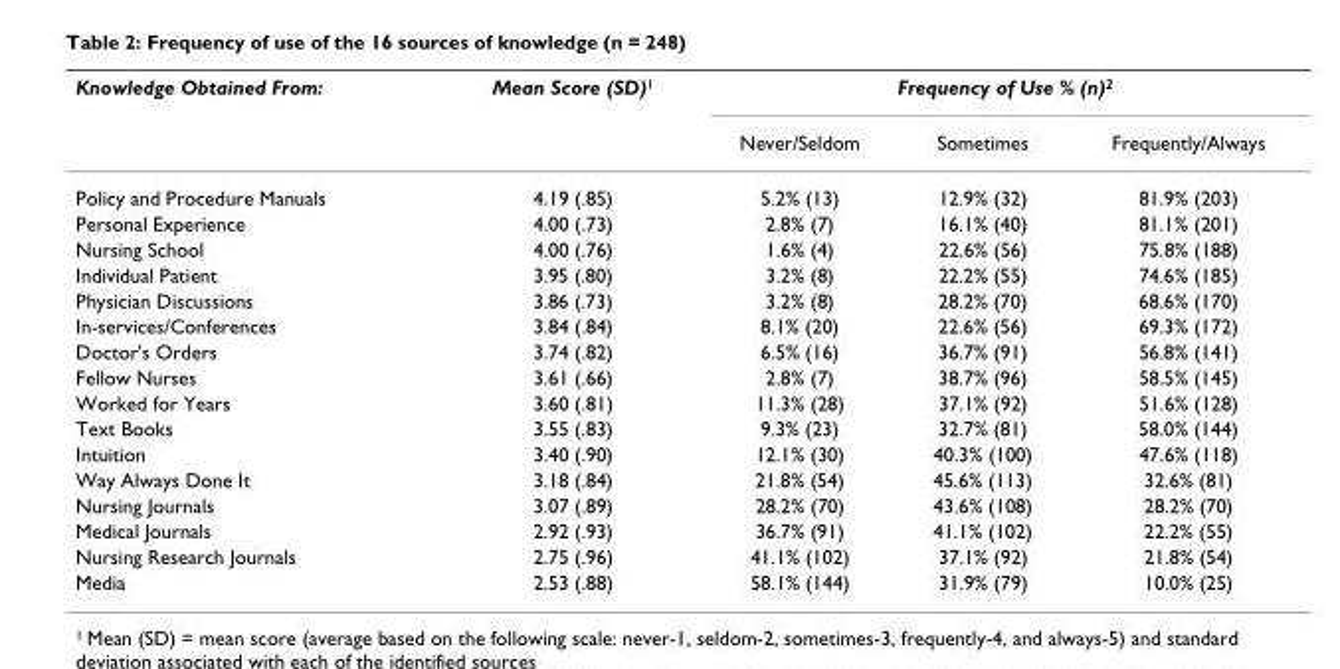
<table><thead><tr><td rowspan="2">Knowledge Obtained From:</td><td rowspan="2">Mean Score (SD)<sup>1</sup></td><td colspan="3">Frequency of Use % (n)<sup>2</sup></td></tr><tr><td>Never/Seldom</td><td>Sometimes</td><td>Frequently/Always</td></tr></thead><tbody><tr><td>Policy and Procedure Manuals</td><td>4.19 (.85)</td><td>5.2% (13)</td><td>12.9% (32)</td><td>81.9% (203)</td></tr><tr><td>Personal Experience</td><td>4.00 (.73)</td><td>2.8% (7)</td><td>16.1% (40)</td><td>81.1% (201)</td></tr><tr><td>Nursing School</td><td>4.00 (.76)</td><td>1.6% (4)</td><td>22.6% (56)</td><td>75.8% (188)</td></tr><tr><td>Individual Patient</td><td>3.95 (.80)</td><td>3.2% (8)</td><td>22.2% (55)</td><td>74.6% (185)</td></tr><tr><td>Physician Discussions</td><td>3.86 (.73)</td><td>3.2% (8)</td><td>28.2% (70)</td><td>68.6% (170)</td></tr><tr><td>In-services/Conferences</td><td>3.84 (.84)</td><td>8.1% (20)</td><td>22.6% (56)</td><td>69.3% (172)</td></tr><tr><td>Doctor&#x27;s Orders</td><td>3.74 (.82)</td><td>6.5% (16)</td><td>36.7% (91)</td><td>56.8% (141)</td></tr><tr><td>Fellow Nurses</td><td>3.61 (.66)</td><td>2.8% (7)</td><td>38.7% (96)</td><td>58.5% (145)</td></tr><tr><td>Worked for Years</td><td>3.60 (.81)</td><td>11.3% (28)</td><td>37.1% (92)</td><td>51.6% (128)</td></tr><tr><td>Text Books</td><td>3.55 (.83)</td><td>9.3% (23)</td><td>32.7% (81)</td><td>58.0% (144)</td></tr><tr><td>Intuition</td><td>3.40 (.90)</td><td>12.1% (30)</td><td>40.3% (100)</td><td>47.6% (118)</td></tr><tr><td>Way Always Done It</td><td>3.18 (.84)</td><td>21.8% (54)</td><td>45.6% (113)</td><td>32.6% (81)</td></tr><tr><td>Nursing Journals</td><td>3.07 (.89)</td><td>28.2% (70)</td><td>43.6% (108)</td><td>28.2% (70)</td></tr><tr><td>Medical Journals</td><td>2.92 (.93)</td><td>36.7% (91)</td><td>41.1% (102)</td><td>22.2% (55)</td></tr><tr><td>Nursing Research Journals</td><td>2.75 (.96)</td><td>41.1% (102)</td><td>37.1% (92)</td><td>21.8% (54)</td></tr><tr><td>Media</td><td>2.53 (.88)</td><td>58.1% (144)</td><td>31.9% (79)</td><td>10.0% (25)</td></tr></tbody></table>